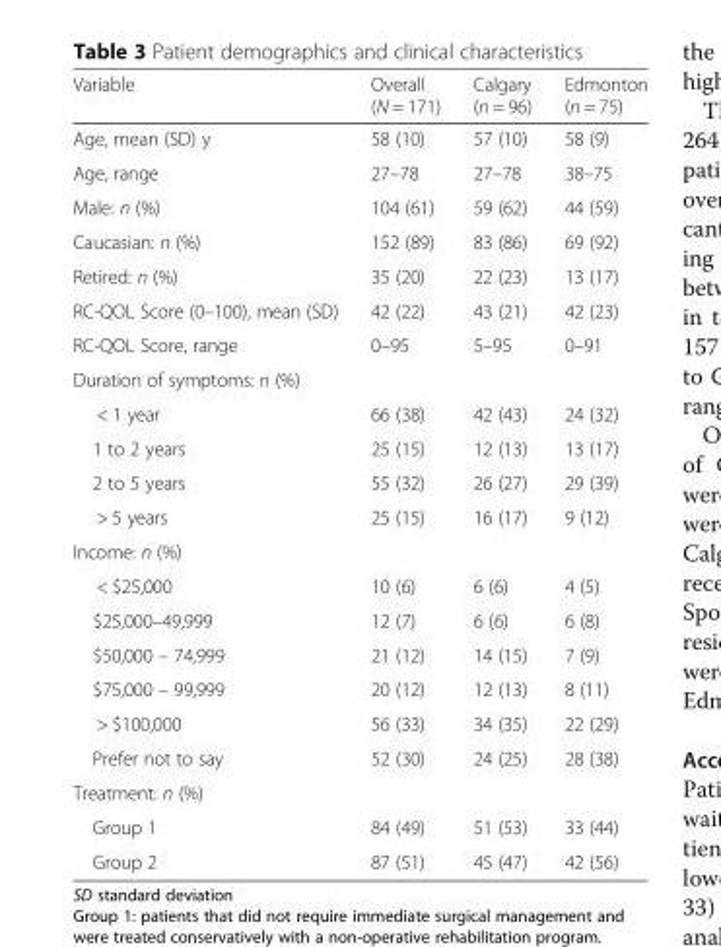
<table><thead><tr><td>Variable</td><td>Overall (N = 171)</td><td>Calgary (n = 96)</td><td>Edmonton (n = 75)</td></tr></thead><tbody><tr><td>Age, mean (SD) y</td><td>58 (10)</td><td>57 (10)</td><td>58 (9)</td></tr><tr><td>Age, range</td><td>27–78</td><td>27–78</td><td>38–75</td></tr><tr><td>Male: n (%)</td><td>104 (61)</td><td>59 (62)</td><td>44 (59)</td></tr><tr><td>Caucasian: n (%)</td><td>152 (89)</td><td>83 (86)</td><td>69 (92)</td></tr><tr><td>Retired: n (%)</td><td>35 (20)</td><td>22 (23)</td><td>13 (17)</td></tr><tr><td>RC-QOL Score (0–100), mean (SD)</td><td>42 (22)</td><td>43 (21)</td><td>42 (23)</td></tr><tr><td>RC-QOL Score, range</td><td>0–95</td><td>5–95</td><td>0–91</td></tr><tr><td colspan="4">Duration of symptoms: n (%)</td></tr><tr><td>&lt; 1 year</td><td>66 (38)</td><td>42 (43)</td><td>24 (32)</td></tr><tr><td>1 to 2 years</td><td>25 (15)</td><td>12 (13)</td><td>13 (17)</td></tr><tr><td>2 to 5 years</td><td>55 (32)</td><td>26 (27)</td><td>29 (39)</td></tr><tr><td>&gt; 5 years</td><td>25 (15)</td><td>16 (17)</td><td>9 (12)</td></tr><tr><td colspan="4">Income: n (%)</td></tr><tr><td>&lt; $25,000</td><td>10 (6)</td><td>6 (6)</td><td>4 (5)</td></tr><tr><td>$25,000–49,999</td><td>12 (7)</td><td>6 (6)</td><td>6 (8)</td></tr><tr><td>$50,000 – 74,999</td><td>21 (12)</td><td>14 (15)</td><td>7 (9)</td></tr><tr><td>$75,000 – 99,999</td><td>20 (12)</td><td>12 (13)</td><td>8 (11)</td></tr><tr><td>&gt; $100,000</td><td>56 (33)</td><td>34 (35)</td><td>22 (29)</td></tr><tr><td>Prefer not to say</td><td>52 (30)</td><td>24 (25)</td><td>28 (38)</td></tr><tr><td colspan="4">Treatment: n (%)</td></tr><tr><td>Group 1</td><td>84 (49)</td><td>51 (53)</td><td>33 (44)</td></tr><tr><td>Group 2</td><td>87 (51)</td><td>45 (47)</td><td>42 (56)</td></tr></tbody></table>